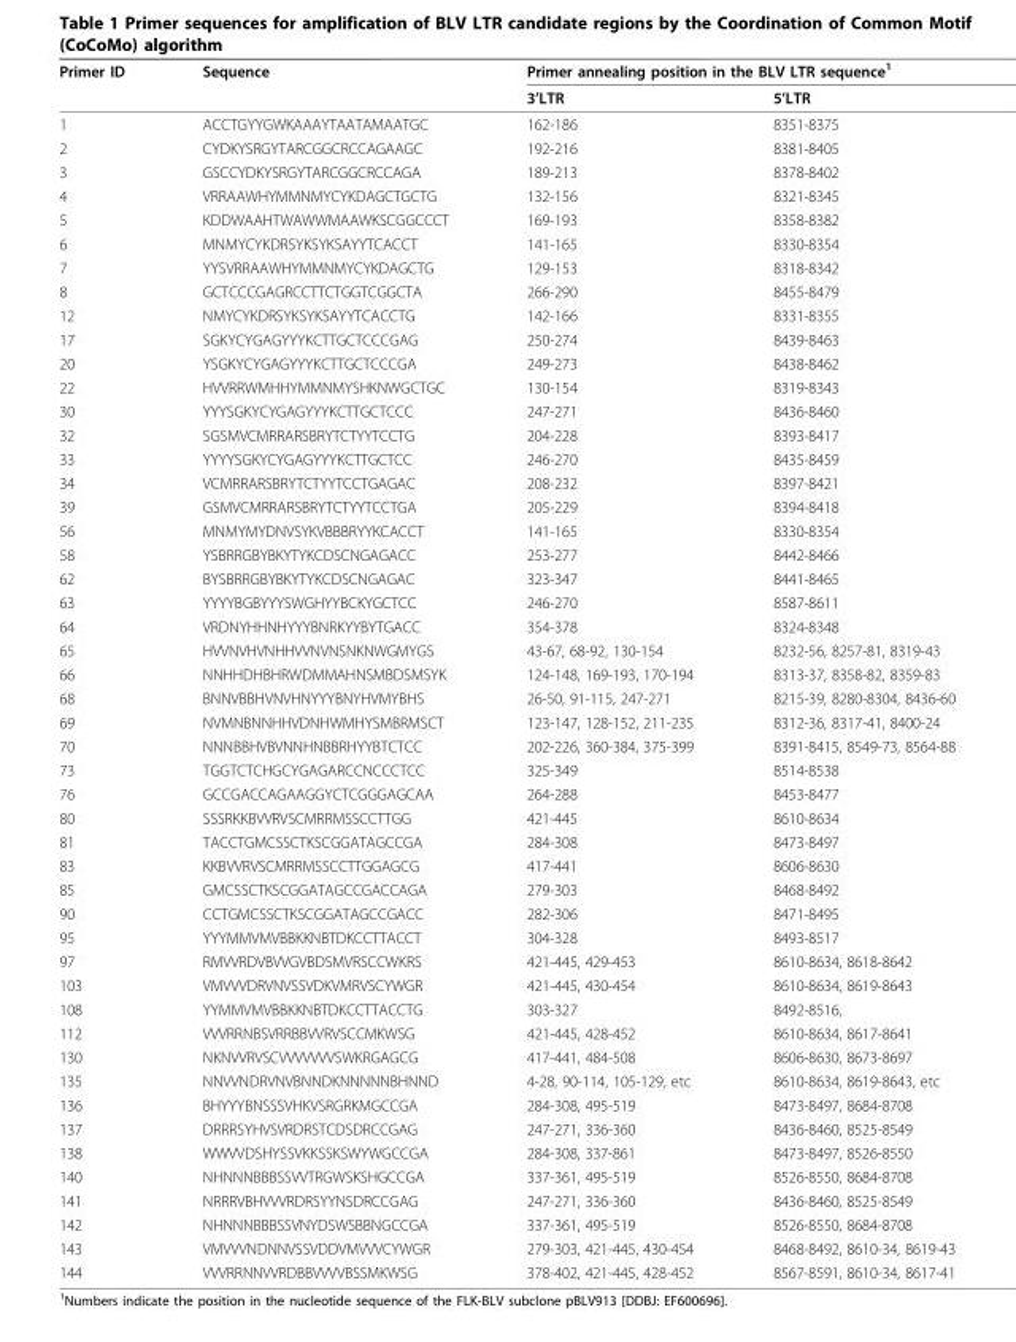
<table><thead><tr><td rowspan="2">Primer ID</td><td rowspan="2">Sequence</td><td colspan="2">Primer annealing position in the BLV LTR sequence<sup>1</sup></td></tr><tr><td>3’LTR</td><td>5’LTR</td></tr></thead><tbody><tr><td>1</td><td>ACCTGYYGWKAAAYTAATAMAATGC</td><td>162-186</td><td>8351-8375</td></tr><tr><td>2</td><td>CYDKYSRGYTARCGGCRCCAGAAGC</td><td>192-216</td><td>8381-8405</td></tr><tr><td>3</td><td>GSCCYDKYSRGYTARCGGCRCCAGA</td><td>189-213</td><td>8378-8402</td></tr><tr><td>4</td><td>VRRAAWHYMMNMYCYKDAGCTGCTG</td><td>132-156</td><td>8321-8345</td></tr><tr><td>5</td><td>KDDWAAHTWAWWMAAWKSCGGCCCT</td><td>169-193</td><td>8358-8382</td></tr><tr><td>6</td><td>MNMYCYKDRSYKSYKSAYYTCACCT</td><td>141-165</td><td>8330-8354</td></tr><tr><td>7</td><td>YYSVRRAAWHYMMNMYCYKDAGCTG</td><td>129-153</td><td>8318-8342</td></tr><tr><td>8</td><td>GCTCCCGAGRCCTTCTGGTCGGCTA</td><td>266-290</td><td>8455-8479</td></tr><tr><td>12</td><td>NMYCYKDRSYKSYKSAYYTCACCTG</td><td>142-166</td><td>8331-8355</td></tr><tr><td>17</td><td>SGKYCYGAGYYYKCTTGCTCCCGAG</td><td>250-274</td><td>8439-8463</td></tr><tr><td>20</td><td>YSGKYCYGAGYYYKCTTGCTCCCGA</td><td>249-273</td><td>8438-8462</td></tr><tr><td>22</td><td>HVVRRWMHHYMMNMYSHKNWGCTGC</td><td>130-154</td><td>8319-8343</td></tr><tr><td>30</td><td>YYYSGKYCYGAGYYYKCTTGCTCCC</td><td>247-271</td><td>8436-8460</td></tr><tr><td>32</td><td>SGSMVCMRRARSBRYTCTYYTCCTG</td><td>204-228</td><td>8393-8417</td></tr><tr><td>33</td><td>YYYYSGKYCYGAGYYYKCTTGCTCC</td><td>246-270</td><td>8435-8459</td></tr><tr><td>34</td><td>VCMRRARSBRYTCTYYTCCTGAGAC</td><td>208-232</td><td>8397-8421</td></tr><tr><td>39</td><td>GSMVCMRRARSBRYTCTYYTCCTGA</td><td>205-229</td><td>8394-8418</td></tr><tr><td>56</td><td>MNMYMYDNVSYKVBBBRYYKCACCT</td><td>141-165</td><td>8330-8354</td></tr><tr><td>58</td><td>YSBRRGBYBKYTYKCDSCNGAGACC</td><td>253-277</td><td>8442-8466</td></tr><tr><td>62</td><td>BYSBRRGBYBKYTYKCDSCNGAGAC</td><td>323-347</td><td>8441-8465</td></tr><tr><td>63</td><td>YYYYBGBYYYSWGHYYBCKYGCTCC</td><td>246-270</td><td>8587-8611</td></tr><tr><td>64</td><td>VRDNYHHNHYYYBNRKYYBYTGACC</td><td>354-378</td><td>8324-8348</td></tr><tr><td>65</td><td>HVVNVHVNHHVVNVNSNKNWGMYGS</td><td>43-67, 68-92, 130-154</td><td>8232-56, 8257-81, 8319-43</td></tr><tr><td>66</td><td>NNHHDHBHRWDMMAHNSMBDSMSYK</td><td>124-148, 169-193, 170-194</td><td>8313-37, 8358-82, 8359-83</td></tr><tr><td>68</td><td>BNNVBBHVNVHNYYYBNYHVMYBHS</td><td>26-50, 91-115, 247-271</td><td>8215-39, 8280-8304, 8436-60</td></tr><tr><td>69</td><td>NVMNBNNHHVDNHWMHYSMBRMSCT</td><td>123-147, 128-152, 211-235</td><td>8312-36, 8317-41, 8400-24</td></tr><tr><td>70</td><td>NNNBBHVBVNNHNBBRHYYBTCTCC</td><td>202-226, 360-384, 375-399</td><td>8391-8415, 8549-73, 8564-88</td></tr><tr><td>73</td><td>TGGTCTCHGCYGAGARCCNCCCTCC</td><td>325-349</td><td>8514-8538</td></tr><tr><td>76</td><td>GCCGACCAGAAGGYCTCGGGAGCAA</td><td>264-288</td><td>8453-8477</td></tr><tr><td>80</td><td>SSSRKKBVVRVSCMRRMSSCCTTGG</td><td>421-445</td><td>8610-8634</td></tr><tr><td>81</td><td>TACCTGMCSSCTKSCGGATAGCCGA</td><td>284-308</td><td>8473-8497</td></tr><tr><td>83</td><td>KKBVVRVSCMRRMSSCCTTGGAGCG</td><td>417-441</td><td>8606-8630</td></tr><tr><td>85</td><td>GMCSSCTKSCGGATAGCCGACCAGA</td><td>279-303</td><td>8468-8492</td></tr><tr><td>90</td><td>CCTGMCSSCTKSCGGATAGCCGACC</td><td>282-306</td><td>8471-8495</td></tr><tr><td>95</td><td>YYYMMVMVBBKKNBTDKCCTTACCT</td><td>304-328</td><td>8493-8517</td></tr><tr><td>97</td><td>RMVVRDVBVVGVBDSMVRSCCWKRS</td><td>421-445, 429-453</td><td>8610-8634, 8618-8642</td></tr><tr><td>103</td><td>VMVVVDRVNVSSVDKVMRVSCYWGR</td><td>421-445, 430-454</td><td>8610-8634, 8619-8643</td></tr><tr><td>108</td><td>YYMMVMVBBKKNBTDKCCTTACCTG</td><td>303-327</td><td>8492-8516,</td></tr><tr><td>112</td><td>VVVRRNBSVRRBBVVRVSCCMKWSG</td><td>421-445, 428-452</td><td>8610-8634, 8617-8641</td></tr><tr><td>130</td><td>NKNVVRVSCVVVVVVVSWKRGAGCG</td><td>417-441, 484-508</td><td>8606-8630, 8673-8697</td></tr><tr><td>135</td><td>NNVVNDRVNVBNNDKNNNNNBHNND</td><td>4-28, 90-114, 105-129, etc</td><td>8610-8634, 8619-8643, etc</td></tr><tr><td>136</td><td>BHYYYBNSSSVHKVSRGRKMGCCGA</td><td>284-308, 495-519</td><td>8473-8497, 8684-8708</td></tr><tr><td>137</td><td>DRRRSYHVSVRDRSTCDSDRCCGAG</td><td>247-271, 336-360</td><td>8436-8460, 8525-8549</td></tr><tr><td>138</td><td>WWVVDSHYSSVKKSSKSWYWGCCGA</td><td>284-308, 337-861</td><td>8473-8497, 8526-8550</td></tr><tr><td>140</td><td>NHNNNBBBSSVVTRGWSKSHGCCGA</td><td>337-361, 495-519</td><td>8526-8550, 8684-8708</td></tr><tr><td>141</td><td>NRRRVBHVVVRDRSYYNSDRCCGAG</td><td>247-271, 336-360</td><td>8436-8460, 8525-8549</td></tr><tr><td>142</td><td>NHNNNBBBSSVNYDSWSBBNGCCGA</td><td>337-361, 495-519</td><td>8526-8550, 8684-8708</td></tr><tr><td>143</td><td>VMVVVNDNNVSSVDDVMVVVCYWGR</td><td>279-303, 421-445, 430-454</td><td>8468-8492, 8610-34, 8619-43</td></tr><tr><td>144</td><td>VVVRRNNVVRDBBVVVVBSSMKWSG</td><td>378-402, 421-445, 428-452</td><td>8567-8591, 8610-34, 8617-41</td></tr></tbody></table>